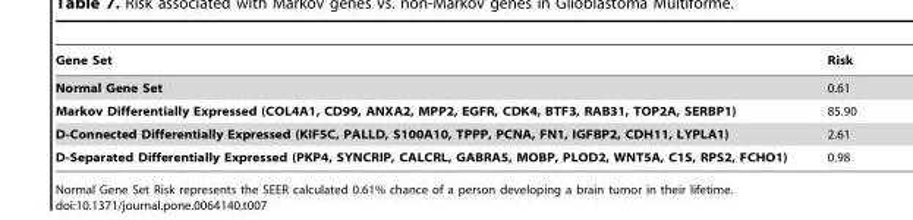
<table><thead><tr><td>Gene Set</td><td>Risk</td></tr></thead><tbody><tr><td>Normal Gene Set</td><td>0.61</td></tr><tr><td>Markov Differentially Expressed (COL4A1, CD99, ANXA2, MPP2, EGFR, CDK4, BTF3, RAB31, TOP2A, SERBP1)</td><td>85.90</td></tr><tr><td>D-Connected Differentially Expressed (KIF5C, PALLD, S100A10, TPPP, PCNA, FN1, IGFBP2, CDH11, LYPLA1)</td><td>2.61</td></tr><tr><td>D-Separated Differentially Expressed (PKP4, SYNCRIP, CALCRL, GABRA5, MOBP, PLOD2, WNT5A, C1S, RPS2, FCHO1)</td><td>0.98</td></tr></tbody></table>